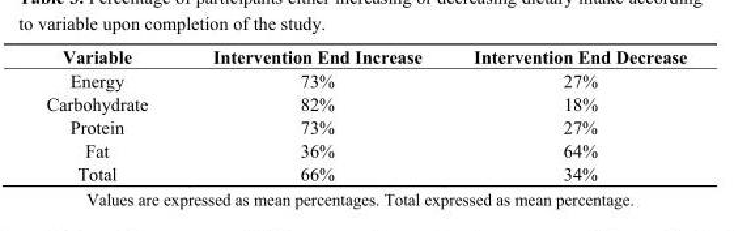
<table><thead><tr><td>Variable</td><td>Intervention End Increase</td><td>Intervention End Decrease</td></tr></thead><tbody><tr><td>Energy</td><td>73%</td><td>27%</td></tr><tr><td>Carbohydrate</td><td>82%</td><td>18%</td></tr><tr><td>Protein</td><td>73%</td><td>27%</td></tr><tr><td>Fat</td><td>36%</td><td>64%</td></tr><tr><td>Total</td><td>66%</td><td>34%</td></tr></tbody></table>